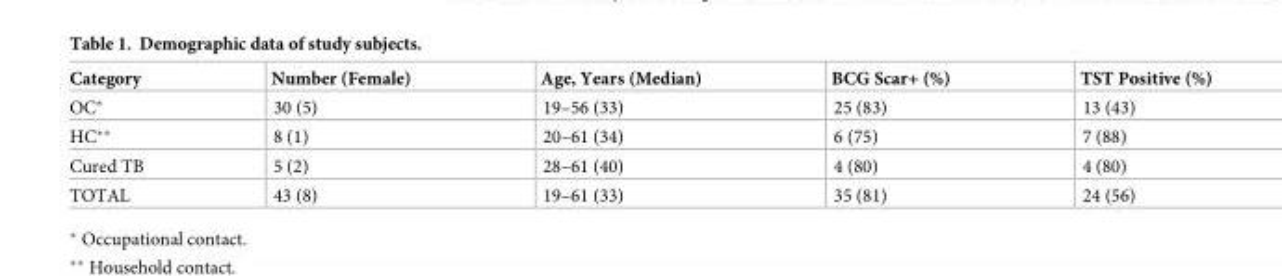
<table><thead><tr><td>Category</td><td>Number (Female)</td><td>Age, Years (Median)</td><td>BCG Scar+ (%)</td><td>TST Positive (%)</td></tr></thead><tbody><tr><td>OC*</td><td>30 (5)</td><td>19–56 (33)</td><td>25 (83)</td><td>13 (43)</td></tr><tr><td>HC**</td><td>8 (1)</td><td>20–61 (34)</td><td>6 (75)</td><td>7 (88)</td></tr><tr><td>Cured TB</td><td>5 (2)</td><td>28–61 (40)</td><td>4 (80)</td><td>4 (80)</td></tr><tr><td>TOTAL</td><td>43 (8)</td><td>19–61 (33)</td><td>35 (81)</td><td>24 (56)</td></tr></tbody></table>